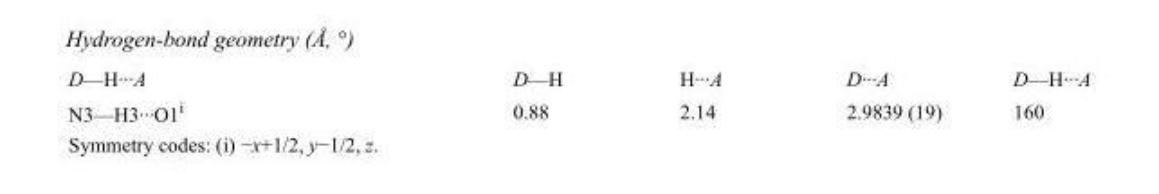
<table><tbody><tr><td>D—H···A</td><td>D—H</td><td>H···A</td><td>D···A</td><td>D—H···A</td></tr><tr><td>N3—H3···O1<sup>i</sup></td><td>0.88</td><td>2.14</td><td>2.9839 (19)</td><td>160</td></tr></tbody></table>